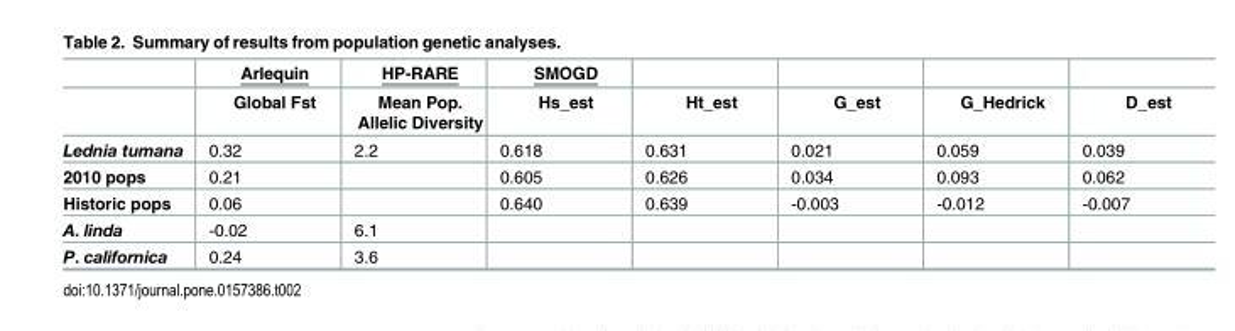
<table><thead><tr><td rowspan="2"></td><td rowspan="2">Arlequin Global Fst</td><td rowspan="2">HP-RARE Mean Pop. Allelic Diversity</td><td rowspan="2">SMOGD Hs_est</td><td rowspan="2">Ht_est</td><td rowspan="2">G_est</td><td rowspan="2">G_Hedrick</td><td rowspan="2">D_est</td></tr><tr></tr></thead><tbody><tr><td>Lednia tumana</td><td>0.32</td><td>2.2</td><td>0.618</td><td>0.631</td><td>0.021</td><td>0.059</td><td>0.039</td></tr><tr><td>2010 pops</td><td>0.21</td><td></td><td>0.605</td><td>0.626</td><td>0.034</td><td>0.093</td><td>0.062</td></tr><tr><td>Historic pops</td><td>0.06</td><td></td><td>0.640</td><td>0.639</td><td>-0.003</td><td>-0.012</td><td>-0.007</td></tr><tr><td>A. linda</td><td>-0.02</td><td>6.1</td><td></td><td></td><td></td><td></td><td></td></tr><tr><td>P. californica</td><td>0.24</td><td>3.6</td><td></td><td></td><td></td><td></td><td></td></tr></tbody></table>